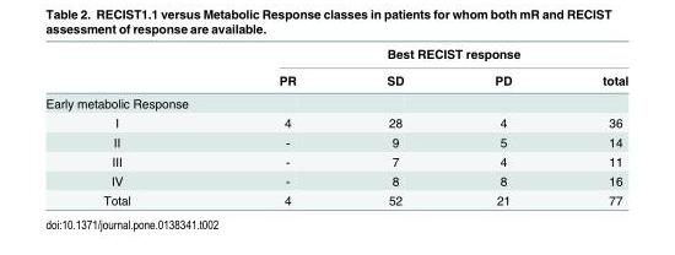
<table><thead><tr><td rowspan="2"></td><td colspan="4">Best RECIST response</td></tr><tr><td>PR</td><td>SD</td><td>PD</td><td>total</td></tr></thead><tbody><tr><td colspan="5">Early metabolic Response</td></tr><tr><td>I</td><td>4</td><td>28</td><td>4</td><td>36</td></tr><tr><td>II</td><td>-</td><td>9</td><td>5</td><td>14</td></tr><tr><td>III</td><td>-</td><td>7</td><td>4</td><td>11</td></tr><tr><td>IV</td><td>-</td><td>8</td><td>8</td><td>16</td></tr><tr><td>Total</td><td>4</td><td>52</td><td>21</td><td>77</td></tr></tbody></table>